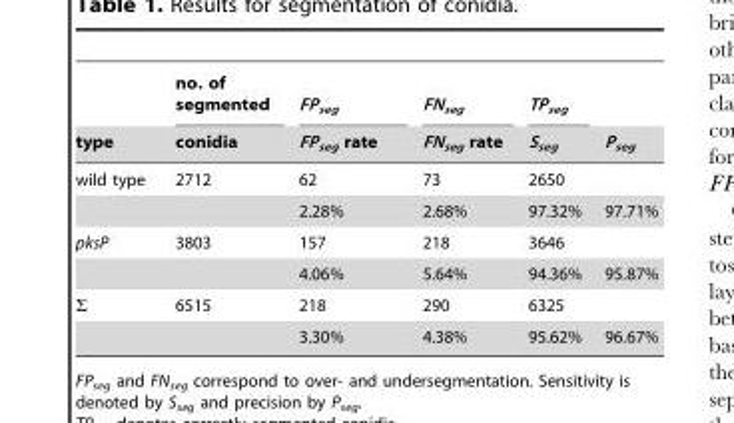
<table><thead><tr><td rowspan="2">type</td><td rowspan="2">no. of segmented conidia</td><td rowspan="2">FP<sub>seg</sub> FP<sub>seg</sub> rate</td><td rowspan="2">FN<sub>seg</sub> FN<sub>seg</sub> rate</td><td rowspan="2">TP<sub>seg</sub> S<sub>seg</sub></td><td rowspan="2">P<sub>seg</sub></td></tr><tr></tr></thead><tbody><tr><td rowspan="2">wild type</td><td>2712</td><td>62</td><td>73</td><td>2650</td><td></td></tr><tr><td></td><td>2.28%</td><td>2.68%</td><td>97.32%</td><td>97.71%</td></tr><tr><td rowspan="2">pksP</td><td>3803</td><td>157</td><td>218</td><td>3646</td><td></td></tr><tr><td></td><td>4.06%</td><td>5.64%</td><td>94.36%</td><td>95.87%</td></tr><tr><td rowspan="2">Σ</td><td>6515</td><td>218</td><td>290</td><td>6325</td><td></td></tr><tr><td></td><td>3.30%</td><td>4.38%</td><td>95.62%</td><td>96.67%</td></tr></tbody></table>